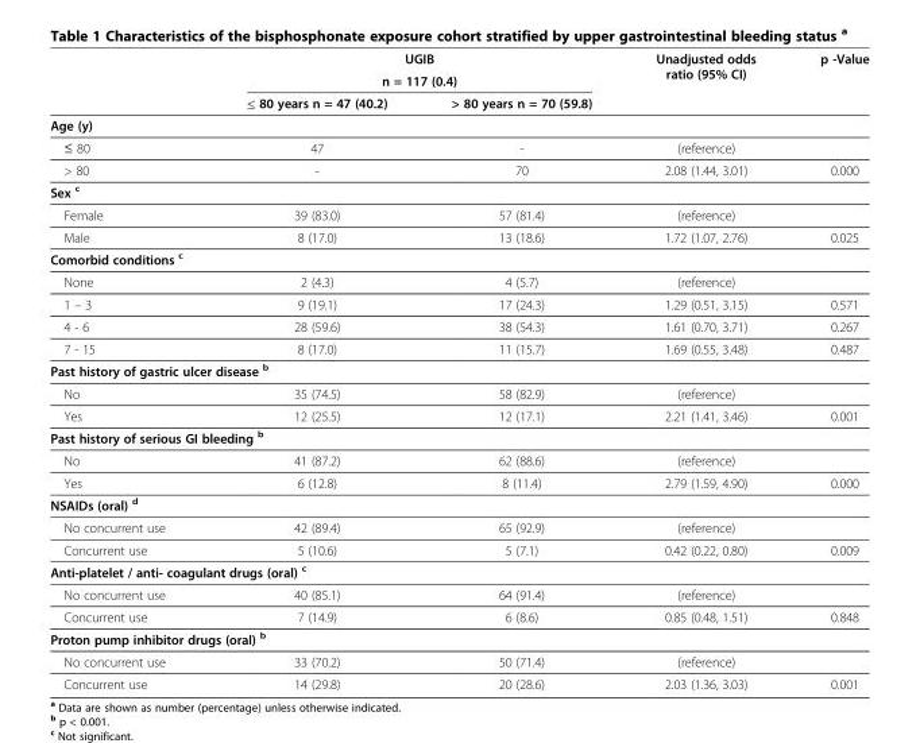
<table><thead><tr><td rowspan="3"></td><td rowspan="2" colspan="2">UGIB n = 117 (0.4)</td><td rowspan="3">Unadjusted odds ratio (95% CI)</td><td rowspan="3">p -Value</td></tr><tr></tr><tr><td>≤ 80 years n = 47 (40.2)</td><td>&gt; 80 years n = 70 (59.8)</td></tr></thead><tbody><tr><td colspan="5">Age (y)</td></tr><tr><td>≤ 80</td><td>47</td><td>-</td><td>(reference)</td><td></td></tr><tr><td>&gt; 80</td><td>-</td><td>70</td><td>2.08 (1.44, 3.01)</td><td>0.000</td></tr><tr><td colspan="5">Sex <sup>c</sup></td></tr><tr><td>Female</td><td>39 (83.0)</td><td>57 (81.4)</td><td>(reference)</td><td></td></tr><tr><td>Male</td><td>8 (17.0)</td><td>13 (18.6)</td><td>1.72 (1.07, 2.76)</td><td>0.025</td></tr><tr><td colspan="5">Comorbid conditions <sup>c</sup></td></tr><tr><td>None</td><td>2 (4.3)</td><td>4 (5.7)</td><td>(reference)</td><td></td></tr><tr><td>1 – 3</td><td>9 (19.1)</td><td>17 (24.3)</td><td>1.29 (0.51, 3.15)</td><td>0.571</td></tr><tr><td>4 - 6</td><td>28 (59.6)</td><td>38 (54.3)</td><td>1.61 (0.70, 3.71)</td><td>0.267</td></tr><tr><td>7 - 15</td><td>8 (17.0)</td><td>11 (15.7)</td><td>1.69 (0.55, 3.48)</td><td>0.487</td></tr><tr><td colspan="5">Past history of gastric ulcer disease <sup>b</sup></td></tr><tr><td>No</td><td>35 (74.5)</td><td>58 (82.9)</td><td>(reference)</td><td></td></tr><tr><td>Yes</td><td>12 (25.5)</td><td>12 (17.1)</td><td>2.21 (1.41, 3.46)</td><td>0.001</td></tr><tr><td colspan="5">Past history of serious GI bleeding <sup>b</sup></td></tr><tr><td>No</td><td>41 (87.2)</td><td>62 (88.6)</td><td>(reference)</td><td></td></tr><tr><td>Yes</td><td>6 (12.8)</td><td>8 (11.4)</td><td>2.79 (1.59, 4.90)</td><td>0.000</td></tr><tr><td colspan="5">NSAIDs (oral) <sup>d</sup></td></tr><tr><td>No concurrent use</td><td>42 (89.4)</td><td>65 (92.9)</td><td>(reference)</td><td></td></tr><tr><td>Concurrent use</td><td>5 (10.6)</td><td>5 (7.1)</td><td>0.42 (0.22, 0.80)</td><td>0.009</td></tr><tr><td colspan="5">Anti-platelet / anti- coagulant drugs (oral) <sup>c</sup></td></tr><tr><td>No concurrent use</td><td>40 (85.1)</td><td>64 (91.4)</td><td>(reference)</td><td></td></tr><tr><td>Concurrent use</td><td>7 (14.9)</td><td>6 (8.6)</td><td>0.85 (0.48, 1.51)</td><td>0.848</td></tr><tr><td colspan="5">Proton pump inhibitor drugs (oral) <sup>b</sup></td></tr><tr><td>No concurrent use</td><td>33 (70.2)</td><td>50 (71.4)</td><td>(reference)</td><td></td></tr><tr><td>Concurrent use</td><td>14 (29.8)</td><td>20 (28.6)</td><td>2.03 (1.36, 3.03)</td><td>0.001</td></tr></tbody></table>